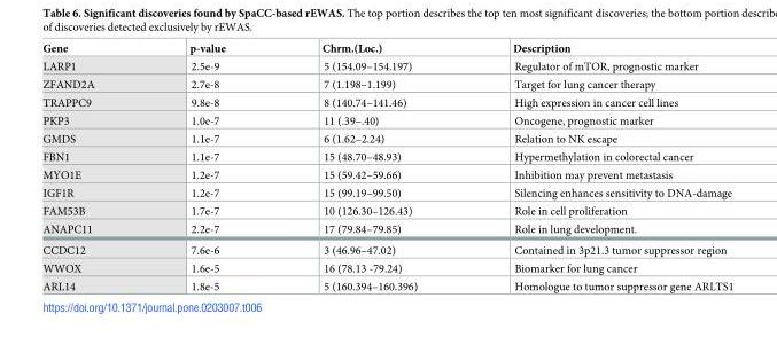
<table><thead><tr><td>Gene</td><td>p-value</td><td>Chrm.(Loc.)</td><td>Description</td></tr></thead><tbody><tr><td>LARP1</td><td>2.5e-9</td><td>5 (154.09–154.197)</td><td>Regulator of mTOR, prognostic marker</td></tr><tr><td>ZFAND2A</td><td>2.7e-8</td><td>7 (1.198–1.199)</td><td>Target for lung cancer therapy</td></tr><tr><td>TRAPPC9</td><td>9.8e-8</td><td>8 (140.74–141.46)</td><td>High expression in cancer cell lines</td></tr><tr><td>PKP3</td><td>1.0e-7</td><td>11 (.39–.40)</td><td>Oncogene, prognostic marker</td></tr><tr><td>GMDS</td><td>1.1e-7</td><td>6 (1.62–2.24)</td><td>Relation to NK escape</td></tr><tr><td>FBN1</td><td>1.1e-7</td><td>15 (48.70–48.93)</td><td>Hypermethylation in colorectal cancer</td></tr><tr><td>MYO1E</td><td>1.2e-7</td><td>15 (59.42–59.66)</td><td>Inhibition may prevent metastasis</td></tr><tr><td>IGF1R</td><td>1.2e-7</td><td>15 (99.19–99.50)</td><td>Silencing enhances sensitivity to DNA-damage</td></tr><tr><td>FAM53B</td><td>1.7e-7</td><td>10 (126.30–126.43)</td><td>Role in cell proliferation</td></tr><tr><td>ANAPC11</td><td>2.2e-7</td><td>17 (79.84–79.85)</td><td>Role in lung development.</td></tr><tr><td>CCDC12</td><td>7.6e-6</td><td>3 (46.96–47.02)</td><td>Contained in 3p21.3 tumor suppressor region</td></tr><tr><td>WWOX</td><td>1.6e-5</td><td>16 (78.13 -79.24)</td><td>Biomarker for lung cancer</td></tr><tr><td>ARL14</td><td>1.8e-5</td><td>5 (160.394–160.396)</td><td>Homologue to tumor suppressor gene ARLTS1</td></tr></tbody></table>